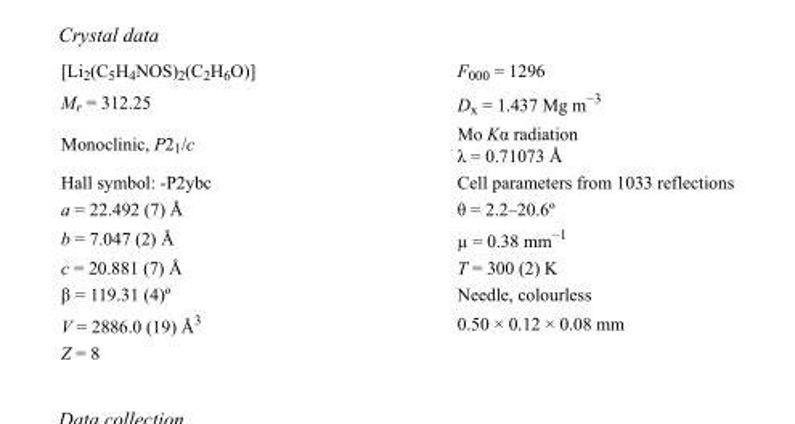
<table><tbody><tr><td>[Li<sub>2</sub>(C<sub>5</sub>H<sub>4</sub>NOS)<sub>2</sub>(C<sub>2</sub>H<sub>6</sub>O)]</td><td>F<sub>000</sub> = 1296</td></tr><tr><td>M<sub>r</sub> = 312.25</td><td>D<sub>x</sub> = 1.437 Mg m<sup>−3</sup></td></tr><tr><td>Monoclinic, P2<sub>1</sub>/c</td><td>Mo Kα radiation λ = 0.71073 Å</td></tr><tr><td>Hall symbol: -P2ybc</td><td>Cell parameters from 1033 reflections</td></tr><tr><td>a = 22.492 (7) Å</td><td>θ = 2.2–20.6º</td></tr><tr><td>b = 7.047 (2) Å</td><td>µ = 0.38 mm<sup>−1</sup></td></tr><tr><td>c = 20.881 (7) Å</td><td>T = 300 (2) K</td></tr><tr><td>β = 119.31 (4)º</td><td>Needle, colourless</td></tr><tr><td>V = 2886.0 (19) Å<sup>3</sup></td><td>0.50 × 0.12 × 0.08 mm</td></tr><tr><td>Z = 8</td><td></td></tr></tbody></table>